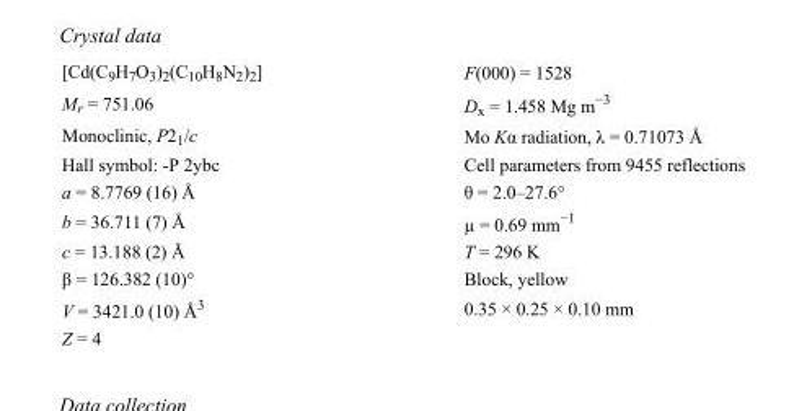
<table><tbody><tr><td>[Cd(C<sub>9</sub>H<sub>7</sub>O<sub>3</sub>)<sub>2</sub>(C<sub>10</sub>H<sub>8</sub>N<sub>2</sub>)<sub>2</sub>]</td><td>F(000) = 1528</td></tr><tr><td>M<sub>r</sub> = 751.06</td><td>D<sub>x</sub> = 1.458 Mg m<sup>−3</sup></td></tr><tr><td>Monoclinic, P2<sub>1</sub>/c</td><td>Mo Kα radiation, λ = 0.71073 Å</td></tr><tr><td>Hall symbol: -P 2ybc</td><td>Cell parameters from 9455 reflections</td></tr><tr><td>a = 8.7769 (16) Å</td><td>θ = 2.0–27.6°</td></tr><tr><td>b = 36.711 (7) Å</td><td>µ = 0.69 mm<sup>−1</sup></td></tr><tr><td>c = 13.188 (2) Å</td><td>T = 296 K</td></tr><tr><td>β = 126.382 (10)°</td><td>Block, yellow</td></tr><tr><td>V = 3421.0 (10) Å<sup>3</sup></td><td>0.35 × 0.25 × 0.10 mm</td></tr><tr><td>Z = 4</td><td></td></tr></tbody></table>